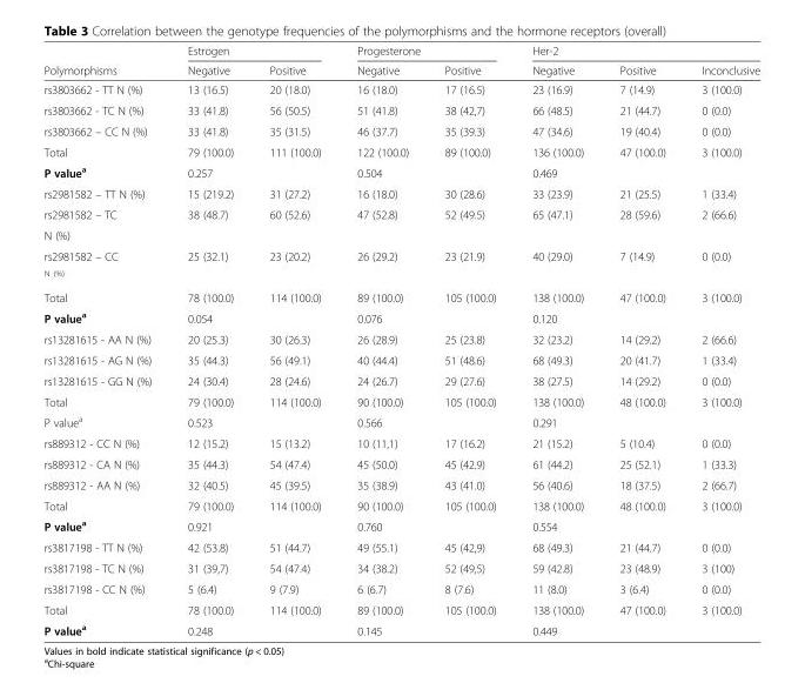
<table><thead><tr><td rowspan="2">Polymorphisms</td><td colspan="2">Estrogen</td><td colspan="2">Progesterone</td><td colspan="3">Her-2</td></tr><tr><td>Negative</td><td>Positive</td><td>Negative</td><td>Positive</td><td>Negative</td><td>Positive</td><td>Inconclusive</td></tr></thead><tbody><tr><td>rs3803662 - TT N (%)</td><td>13 (16.5)</td><td>20 (18.0)</td><td>16 (18.0)</td><td>17 (16.5)</td><td>23 (16.9)</td><td>7 (14.9)</td><td>3 (100.0)</td></tr><tr><td>rs3803662 - TC N (%)</td><td>33 (41.8)</td><td>56 (50.5)</td><td>51 (41.8)</td><td>38 (42,7)</td><td>66 (48.5)</td><td>21 (44.7)</td><td>0 (0.0)</td></tr><tr><td>rs3803662 – CC N (%)</td><td>33 (41.8)</td><td>35 (31.5)</td><td>46 (37.7)</td><td>35 (39.3)</td><td>47 (34.6)</td><td>19 (40.4)</td><td>0 (0.0)</td></tr><tr><td>Total</td><td>79 (100.0)</td><td>111 (100.0)</td><td>122 (100.0)</td><td>89 (100.0)</td><td>136 (100.0)</td><td>47 (100.0)</td><td>3 (100.0)</td></tr><tr><td>P value<sup>a</sup></td><td colspan="2">0.257</td><td colspan="2">0.504</td><td colspan="3">0.469</td></tr><tr><td>rs2981582 – TT N (%)</td><td>15 (219.2)</td><td>31 (27.2)</td><td>16 (18.0)</td><td>30 (28.6)</td><td>33 (23.9)</td><td>21 (25.5)</td><td>1 (33.4)</td></tr><tr><td>rs2981582 – TC</td><td>38 (48.7)</td><td>60 (52.6)</td><td>47 (52.8)</td><td>52 (49.5)</td><td>65 (47.1)</td><td>28 (59.6)</td><td>2 (66.6)</td></tr><tr><td colspan="8">N (%)</td></tr><tr><td>rs2981582 – CC</td><td>25 (32.1)</td><td>23 (20.2)</td><td>26 (29.2)</td><td>23 (21.9)</td><td>40 (29.0)</td><td>7 (14.9)</td><td>0 (0.0)</td></tr><tr><td colspan="8"><sup>N (%)</sup></td></tr><tr><td>Total</td><td>78 (100.0)</td><td>114 (100.0)</td><td>89 (100.0)</td><td>105 (100.0)</td><td>138 (100.0)</td><td>47 (100.0)</td><td>3 (100.0)</td></tr><tr><td>P value<sup>a</sup></td><td colspan="2">0.054</td><td colspan="2">0.076</td><td colspan="3">0.120</td></tr><tr><td>rs13281615 - AA N (%)</td><td>20 (25.3)</td><td>30 (26.3)</td><td>26 (28.9)</td><td>25 (23.8)</td><td>32 (23.2)</td><td>14 (29.2)</td><td>2 (66.6)</td></tr><tr><td>rs13281615 - AG N (%)</td><td>35 (44.3)</td><td>56 (49.1)</td><td>40 (44.4)</td><td>51 (48.6)</td><td>68 (49.3)</td><td>20 (41.7)</td><td>1 (33.4)</td></tr><tr><td>rs13281615 - GG N (%)</td><td>24 (30.4)</td><td>28 (24.6)</td><td>24 (26.7)</td><td>29 (27.6)</td><td>38 (27.5)</td><td>14 (29.2)</td><td>0 (0.0)</td></tr><tr><td>Total</td><td>79 (100.0)</td><td>114 (100.0)</td><td>90 (100.0)</td><td>105 (100.0)</td><td>138 (100.0)</td><td>48 (100.0)</td><td>3 (100.0)</td></tr><tr><td>P value<sup>a</sup></td><td colspan="2">0.523</td><td colspan="2">0.566</td><td colspan="3">0.291</td></tr><tr><td>rs889312 - CC N (%)</td><td>12 (15.2)</td><td>15 (13.2)</td><td>10 (11,1)</td><td>17 (16.2)</td><td>21 (15.2)</td><td>5 (10.4)</td><td>0 (0.0)</td></tr><tr><td>rs889312 - CA N (%)</td><td>35 (44.3)</td><td>54 (47.4)</td><td>45 (50.0)</td><td>45 (42.9)</td><td>61 (44.2)</td><td>25 (52.1)</td><td>1 (33.3)</td></tr><tr><td>rs889312 - AA N (%)</td><td>32 (40.5)</td><td>45 (39.5)</td><td>35 (38.9)</td><td>43 (41.0)</td><td>56 (40.6)</td><td>18 (37.5)</td><td>2 (66.7)</td></tr><tr><td>Total</td><td>79 (100.0)</td><td>114 (100.0)</td><td>90 (100.0)</td><td>105 (100.0)</td><td>138 (100.0)</td><td>48 (100.0)</td><td>3 (100.0)</td></tr><tr><td>P value<sup>a</sup></td><td colspan="2">0.921</td><td colspan="2">0.760</td><td colspan="3">0.554</td></tr><tr><td>rs3817198 - TT N (%)</td><td>42 (53.8)</td><td>51 (44.7)</td><td>49 (55.1)</td><td>45 (42,9)</td><td>68 (49.3)</td><td>21 (44.7)</td><td>0 (0.0)</td></tr><tr><td>rs3817198 - TC N (%)</td><td>31 (39,7)</td><td>54 (47.4)</td><td>34 (38.2)</td><td>52 (49,5)</td><td>59 (42.8)</td><td>23 (48.9)</td><td>3 (100)</td></tr><tr><td>rs3817198 - CC N (%)</td><td>5 (6.4)</td><td>9 (7.9)</td><td>6 (6.7)</td><td>8 (7.6)</td><td>11 (8.0)</td><td>3 (6.4)</td><td>0 (0.0)</td></tr><tr><td>Total</td><td>78 (100.0)</td><td>114 (100.0)</td><td>89 (100.0)</td><td>105 (100.0)</td><td>138 (100.0)</td><td>47 (100.0)</td><td>3 (100.0)</td></tr><tr><td>P value<sup>a</sup></td><td colspan="2">0.248</td><td colspan="2">0.145</td><td colspan="3">0.449</td></tr></tbody></table>